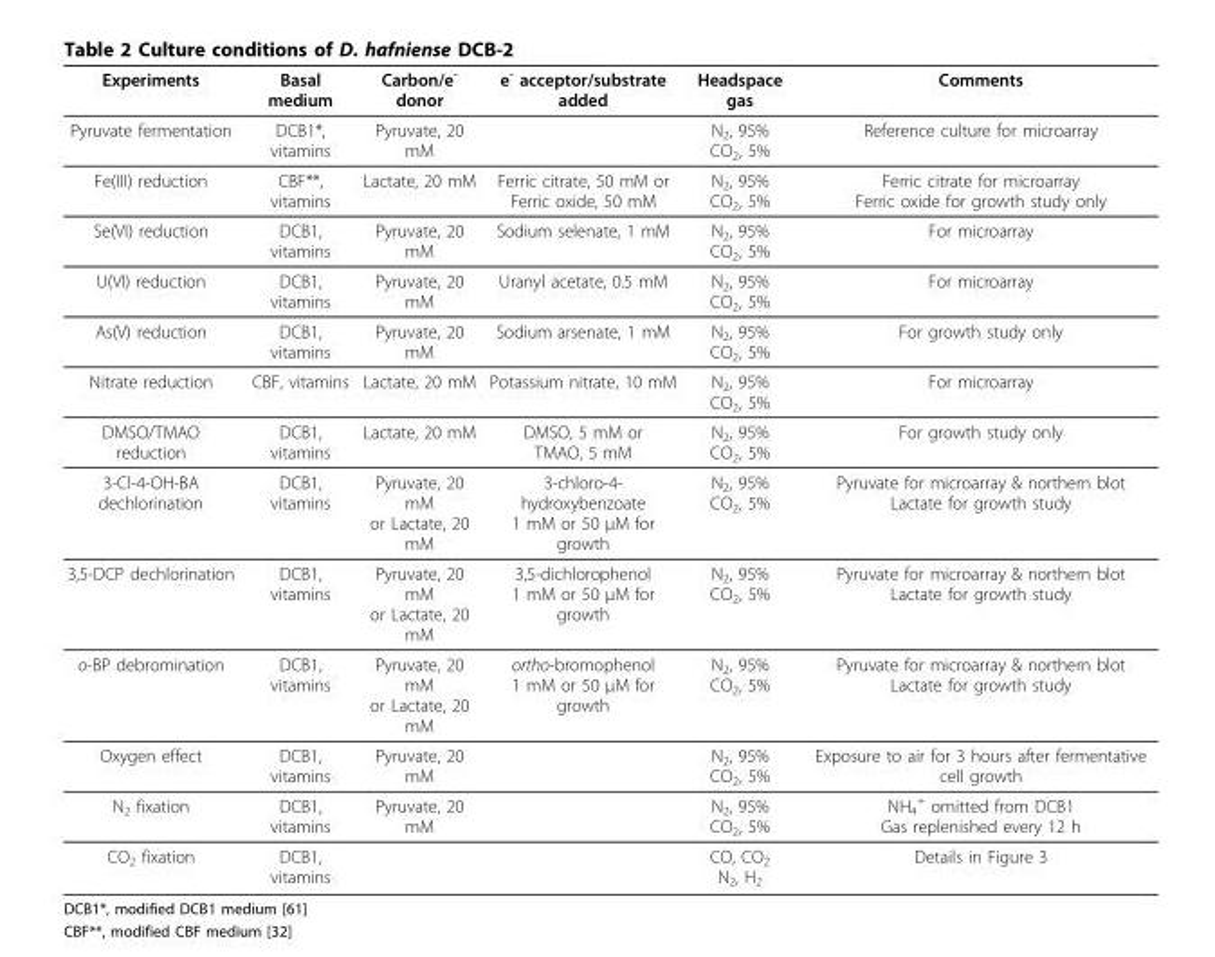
<table><thead><tr><td>Experiments</td><td>Basal medium</td><td>Carbon/e<sup>-</sup> donor</td><td>e<sup>-</sup> acceptor/substrate added</td><td>Headspace gas</td><td>Comments</td></tr></thead><tbody><tr><td>Pyruvate fermentation</td><td>DCB1*, vitamins</td><td>Pyruvate, 20 mM</td><td></td><td>N<sub>2</sub>, 95% CO<sub>2</sub>, 5%</td><td>Reference culture for microarray</td></tr><tr><td>Fe(III) reduction</td><td>CBF**, vitamins</td><td>Lactate, 20 mM</td><td>Ferric citrate, 50 mM or Ferric oxide, 50 mM</td><td>N<sub>2</sub>, 95% CO<sub>2</sub>, 5%</td><td>Ferric citrate for microarray Ferric oxide for growth study only</td></tr><tr><td>Se(VI) reduction</td><td>DCB1, vitamins</td><td>Pyruvate, 20 mM</td><td>Sodium selenate, 1 mM</td><td>N<sub>2</sub>, 95% CO<sub>2</sub>, 5%</td><td>For microarray</td></tr><tr><td>U(VI) reduction</td><td>DCB1, vitamins</td><td>Pyruvate, 20 mM</td><td>Uranyl acetate, 0.5 mM</td><td>N<sub>2</sub>, 95% CO<sub>2</sub>, 5%</td><td>For microarray</td></tr><tr><td>As(V) reduction</td><td>DCB1, vitamins</td><td>Pyruvate, 20 mM</td><td>Sodium arsenate, 1 mM</td><td>N<sub>2</sub>, 95% CO<sub>2</sub>, 5%</td><td>For growth study only</td></tr><tr><td>Nitrate reduction</td><td>CBF, vitamins</td><td>Lactate, 20 mM</td><td>Potassium nitrate, 10 mM</td><td>N<sub>2</sub>, 95% CO<sub>2</sub>, 5%</td><td>For microarray</td></tr><tr><td>DMSO/TMAO reduction</td><td>DCB1, vitamins</td><td>Lactate, 20 mM</td><td>DMSO, 5 mM or TMAO, 5 mM</td><td>N<sub>2</sub>, 95% CO<sub>2</sub>, 5%</td><td>For growth study only</td></tr><tr><td>3-Cl-4-OH-BA dechlorination</td><td>DCB1, vitamins</td><td>Pyruvate, 20 mM or Lactate, 20 mM</td><td>3-chloro-4- hydroxybenzoate 1 mM or 50 μM for growth</td><td>N<sub>2</sub>, 95% CO<sub>2</sub>, 5%</td><td>Pyruvate for microarray &amp; northern blot Lactate for growth study</td></tr><tr><td>3,5-DCP dechlorination</td><td>DCB1, vitamins</td><td>Pyruvate, 20 mM or Lactate, 20 mM</td><td>3,5-dichlorophenol 1 mM or 50 μM for growth</td><td>N<sub>2</sub>, 95% CO<sub>2</sub>, 5%</td><td>Pyruvate for microarray &amp; northern blot Lactate for growth study</td></tr><tr><td>o-BP debromination</td><td>DCB1, vitamins</td><td>Pyruvate, 20 mM or Lactate, 20 mM</td><td>ortho-bromophenol 1 mM or 50 μM for growth</td><td>N<sub>2</sub>, 95% CO<sub>2</sub>, 5%</td><td>Pyruvate for microarray &amp; northern blot Lactate for growth study</td></tr><tr><td>Oxygen effect</td><td>DCB1, vitamins</td><td>Pyruvate, 20 mM</td><td></td><td>N<sub>2</sub>, 95% CO<sub>2</sub>, 5%</td><td>Exposure to air for 3 hours after fermentative cell growth</td></tr><tr><td>N<sub>2</sub> fixation</td><td>DCB1, vitamins</td><td>Pyruvate, 20 mM</td><td></td><td>N<sub>2</sub>, 95% CO<sub>2</sub>, 5%</td><td>NH<sub>4</sub> <sup>+</sup> omitted from DCB1 Gas replenished every 12 h</td></tr><tr><td>CO<sub>2</sub> fixation</td><td>DCB1, vitamins</td><td></td><td></td><td>CO, CO<sub>2</sub> N<sub>2</sub>, H<sub>2</sub></td><td>Details in Figure 3</td></tr></tbody></table>